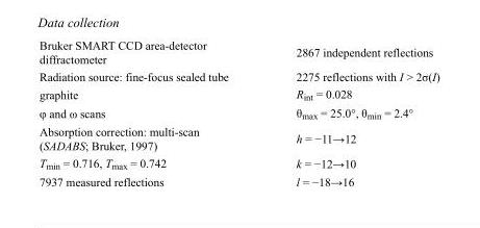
<table><tbody><tr><td>Bruker SMART CCD area-detector diffractometer</td><td>2867 independent reflections</td></tr><tr><td>Radiation source: fine-focus sealed tube</td><td>2275 reflections with I &gt; 2σ(I)</td></tr><tr><td>graphite</td><td>R<sub>int</sub> = 0.028</td></tr><tr><td>φ and ω scans</td><td>θ<sub>max</sub> = 25.0°, θ<sub>min</sub> = 2.4°</td></tr><tr><td>Absorption correction: multi-scan (SADABS; Bruker, 1997)</td><td>h = −11→12</td></tr><tr><td>T<sub>min</sub> = 0.716, T<sub>max</sub> = 0.742</td><td>k = −12→10</td></tr><tr><td>7937 measured reflections</td><td>l = −18→16</td></tr></tbody></table>